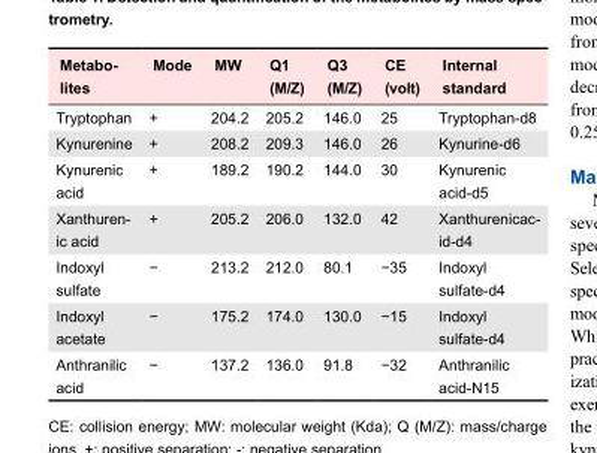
<table><thead><tr><td>Metabo- lites</td><td>Mode</td><td>MW</td><td>Q1 (M/Z)</td><td>Q3 (M/Z)</td><td>CE (volt)</td><td>Internal standard</td></tr></thead><tbody><tr><td>Tryptophan</td><td>+</td><td>204.2</td><td>205.2</td><td>146.0</td><td>25</td><td>Tryptophan-d8</td></tr><tr><td>Kynurenine</td><td>+</td><td>208.2</td><td>209.3</td><td>146.0</td><td>26</td><td>Kynurine-d6</td></tr><tr><td>Kynurenic acid</td><td>+</td><td>189.2</td><td>190.2</td><td>144.0</td><td>30</td><td>Kynurenic acid-d5</td></tr><tr><td>Xanthuren- ic acid</td><td>+</td><td>205.2</td><td>206.0</td><td>132.0</td><td>42</td><td>Xanthurenicac- id-d4</td></tr><tr><td>Indoxyl sulfate</td><td>−</td><td>213.2</td><td>212.0</td><td>80.1</td><td>−35</td><td>Indoxyl sulfate-d4</td></tr><tr><td>Indoxyl acetate</td><td>−</td><td>175.2</td><td>174.0</td><td>130.0</td><td>−15</td><td>Indoxyl sulfate-d4</td></tr><tr><td>Anthranilic acid</td><td>−</td><td>137.2</td><td>136.0</td><td>91.8</td><td>−32</td><td>Anthranilic acid-N15</td></tr></tbody></table>